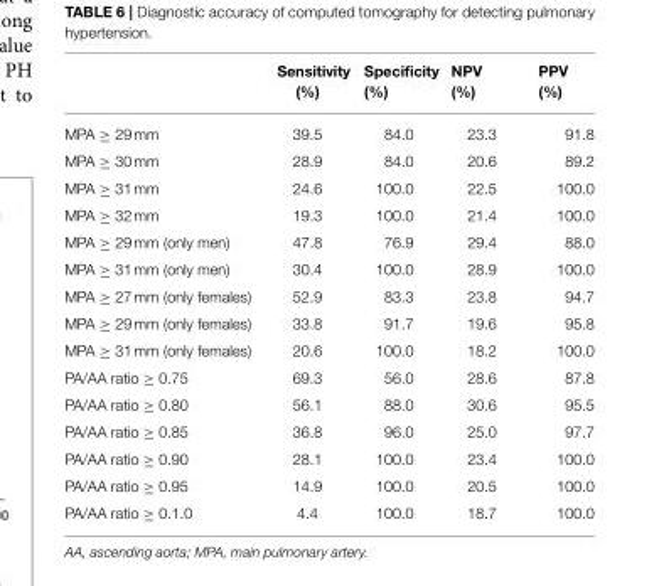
<table><thead><tr><td></td><td>Sensitivity (%)</td><td>Specificity (%)</td><td>NPV (%)</td><td>PPV (%)</td></tr></thead><tbody><tr><td>MPA ≥ 29 mm</td><td>39.5</td><td>84.0</td><td>23.3</td><td>91.8</td></tr><tr><td>MPA ≥ 30 mm</td><td>28.9</td><td>84.0</td><td>20.6</td><td>89.2</td></tr><tr><td>MPA ≥ 31 mm</td><td>24.6</td><td>100.0</td><td>22.5</td><td>100.0</td></tr><tr><td>MPA ≥ 32 mm</td><td>19.3</td><td>100.0</td><td>21.4</td><td>100.0</td></tr><tr><td>MPA ≥ 29 mm (only men)</td><td>47.8</td><td>76.9</td><td>29.4</td><td>88.0</td></tr><tr><td>MPA ≥ 31 mm (only men)</td><td>30.4</td><td>100.0</td><td>28.9</td><td>100.0</td></tr><tr><td>MPA ≥ 27 mm (only females)</td><td>52.9</td><td>83.3</td><td>23.8</td><td>94.7</td></tr><tr><td>MPA ≥ 29 mm (only females)</td><td>33.8</td><td>91.7</td><td>19.6</td><td>95.8</td></tr><tr><td>MPA ≥ 31 mm (only females)</td><td>20.6</td><td>100.0</td><td>18.2</td><td>100.0</td></tr><tr><td>PA/AA ratio ≥ 0.75</td><td>69.3</td><td>56.0</td><td>28.6</td><td>87.8</td></tr><tr><td>PA/AA ratio ≥ 0.80</td><td>56.1</td><td>88.0</td><td>30.6</td><td>95.5</td></tr><tr><td>PA/AA ratio ≥ 0.85</td><td>36.8</td><td>96.0</td><td>25.0</td><td>97.7</td></tr><tr><td>PA/AA ratio ≥ 0.90</td><td>28.1</td><td>100.0</td><td>23.4</td><td>100.0</td></tr><tr><td>PA/AA ratio ≥ 0.95</td><td>14.9</td><td>100.0</td><td>20.5</td><td>100.0</td></tr><tr><td>PA/AA ratio ≥ 0.1.0</td><td>4.4</td><td>100.0</td><td>18.7</td><td>100.0</td></tr></tbody></table>